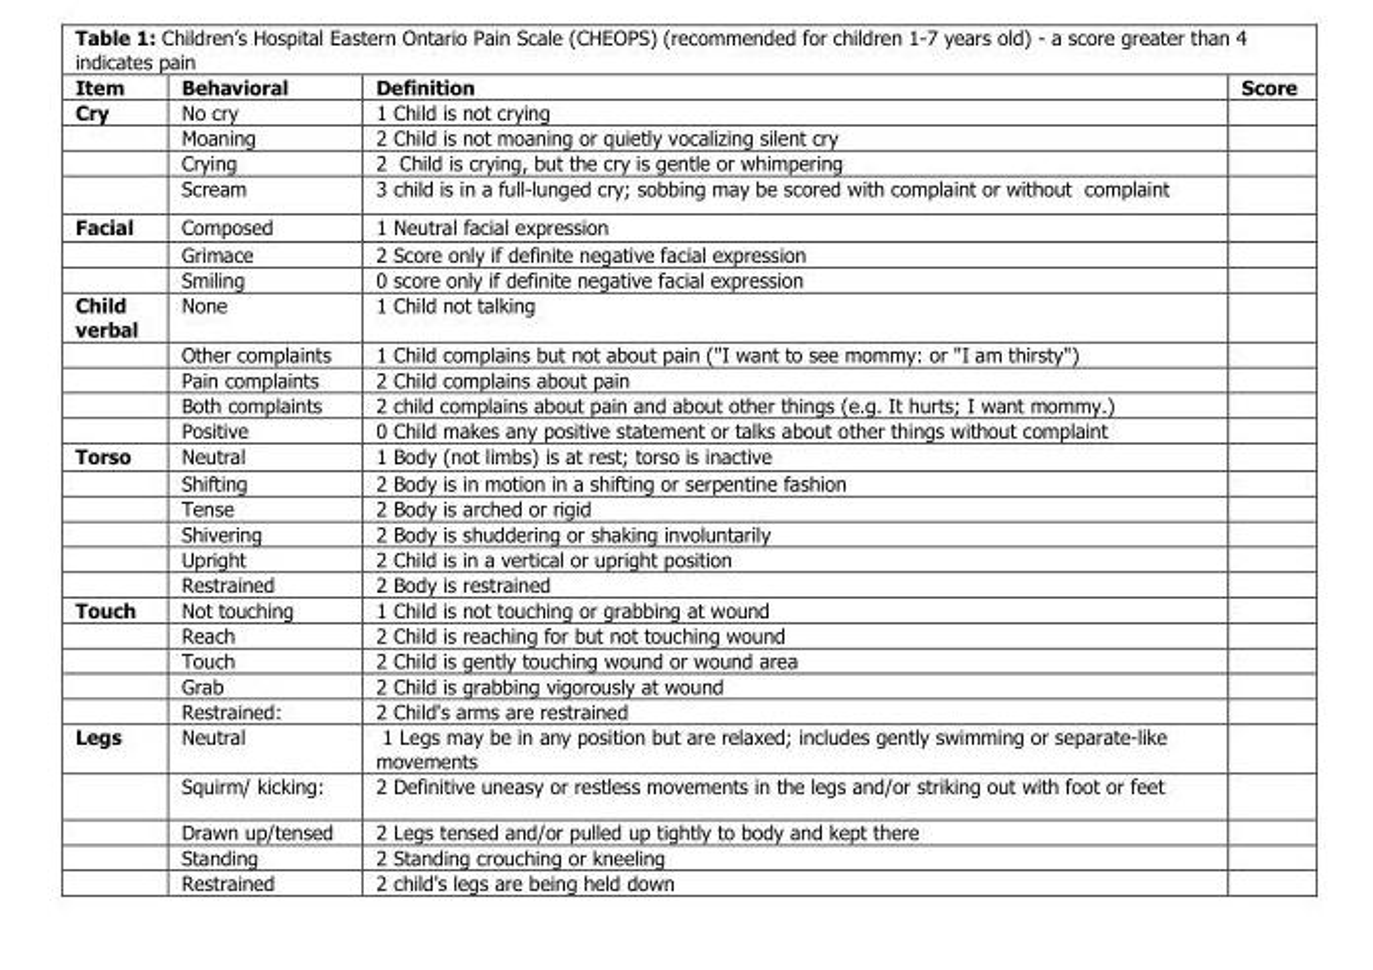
<table><thead><tr><td>Item</td><td>Behavioral</td><td>Definition</td><td>Score</td></tr></thead><tbody><tr><td rowspan="4">Cry</td><td>No cry</td><td>1 Child is not crying</td><td></td></tr><tr><td>Moaning</td><td>2 Child is not moaning or quietly vocalizing silent cry</td><td></td></tr><tr><td>Crying</td><td>2 Child is crying, but the cry is gentle or whimpering</td><td></td></tr><tr><td>Scream</td><td>3 child is in a full-lunged cry; sobbing may be scored with complaint or without complaint</td><td></td></tr><tr><td rowspan="3">Facial</td><td>Composed</td><td>1 Neutral facial expression</td><td></td></tr><tr><td>Grimace</td><td>2 Score only if definite negative facial expression</td><td></td></tr><tr><td>Smiling</td><td>0 score only if definite negative facial expression</td><td></td></tr><tr><td rowspan="5">Child verbal</td><td>None</td><td>1 Child not talking</td><td></td></tr><tr><td>Other complaints</td><td>1 Child complains but not about pain (&quot;I want to see mommy: or &quot;I am thirsty&quot;)</td><td></td></tr><tr><td>Pain complaints</td><td>2 Child complains about pain</td><td></td></tr><tr><td>Both complaints</td><td>2 child complains about pain and about other things (e.g. It hurts; I want mommy.)</td><td></td></tr><tr><td>Positive</td><td>0 Child makes any positive statement or talks about other things without complaint</td><td></td></tr><tr><td rowspan="6">Torso</td><td>Neutral</td><td>1 Body (not limbs) is at rest; torso is inactive</td><td></td></tr><tr><td>Shifting</td><td>2 Body is in motion in a shifting or serpentine fashion</td><td></td></tr><tr><td>Tense</td><td>2 Body is arched or rigid</td><td></td></tr><tr><td>Shivering</td><td>2 Body is shuddering or shaking involuntarily</td><td></td></tr><tr><td>Upright</td><td>2 Child is in a vertical or upright position</td><td></td></tr><tr><td>Restrained</td><td>2 Body is restrained</td><td></td></tr><tr><td rowspan="5">Touch</td><td>Not touching</td><td>1 Child is not touching or grabbing at wound</td><td></td></tr><tr><td>Reach</td><td>2 Child is reaching for but not touching wound</td><td></td></tr><tr><td>Touch</td><td>2 Child is gently touching wound or wound area</td><td></td></tr><tr><td>Grab</td><td>2 Child is grabbing vigorously at wound</td><td></td></tr><tr><td>Restrained:</td><td>2 Child&#x27;s arms are restrained</td><td></td></tr><tr><td rowspan="5">Legs</td><td>Neutral</td><td>1 Legs may be in any position but are relaxed; includes gently swimming or separate-like movements</td><td></td></tr><tr><td>Squirm/ kicking:</td><td>2 Definitive uneasy or restless movements in the legs and/or striking out with foot or feet</td><td></td></tr><tr><td>Drawn up/tensed</td><td>2 Legs tensed and/or pulled up tightly to body and kept there</td><td></td></tr><tr><td>Standing</td><td>2 Standing crouching or kneeling</td><td></td></tr><tr><td>Restrained</td><td>2 child&#x27;s legs are being held down</td><td></td></tr></tbody></table>